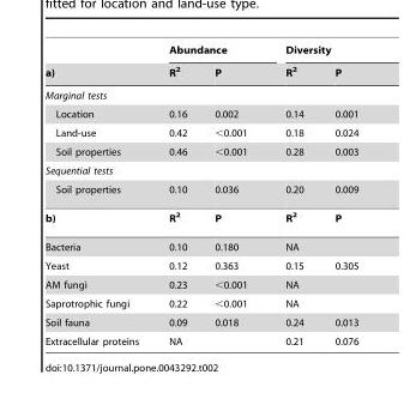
<table><thead><tr><td rowspan="2">a)</td><td colspan="2">Abundance</td><td colspan="2">Diversity</td></tr><tr><td>R2</td><td>P</td><td>R<sup>2</sup></td><td>P</td></tr></thead><tbody><tr><td colspan="5">Marginal tests</td></tr><tr><td>Location</td><td>0.16</td><td>0.002</td><td>0.14</td><td>0.001</td></tr><tr><td>Land-use</td><td>0.42</td><td>&lt;0.001</td><td>0.18</td><td>0.024</td></tr><tr><td>Soil properties</td><td>0.46</td><td>&lt;0.001</td><td>0.28</td><td>0.003</td></tr><tr><td colspan="5">Sequential tests</td></tr><tr><td>Soil properties</td><td>0.10</td><td>0.036</td><td>0.20</td><td>0.009</td></tr><tr><td>b)</td><td>R<sup>2</sup></td><td>P</td><td>R<sup>2</sup></td><td>P</td></tr><tr><td>Bacteria</td><td>0.10</td><td>0.180</td><td colspan="2">NA</td></tr><tr><td>Yeast</td><td>0.12</td><td>0.363</td><td>0.15</td><td>0.305</td></tr><tr><td>AM fungi</td><td>0.23</td><td>&lt;0.001</td><td colspan="2">NA</td></tr><tr><td>Saprotrophic fungi</td><td>0.22</td><td>&lt;0.001</td><td colspan="2">NA</td></tr><tr><td>Soil fauna</td><td>0.09</td><td>0.018</td><td>0.24</td><td>0.013</td></tr><tr><td>Extracellular proteins</td><td colspan="2">NA</td><td>0.21</td><td>0.076</td></tr></tbody></table>